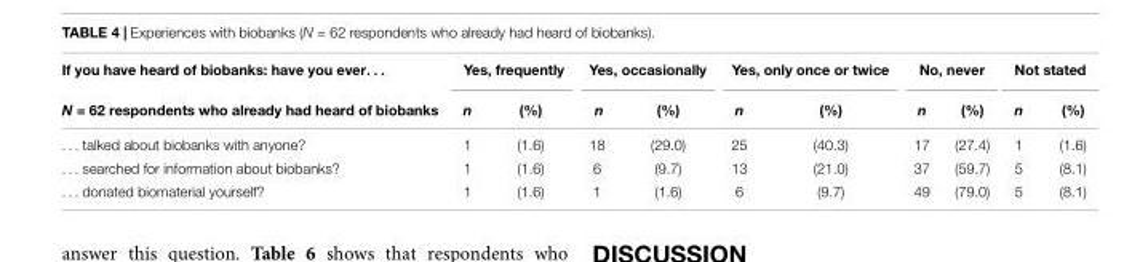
<table><thead><tr><td rowspan="2">If you have heard of biobanks: have you ever. . . N = 62 respondents who already had heard of biobanks</td><td colspan="2">Yes, frequently</td><td colspan="2">Yes, occasionally</td><td colspan="2">Yes, only once or twice</td><td colspan="2">No, never</td><td colspan="2">Not stated</td></tr><tr><td>n</td><td>(%)</td><td>n</td><td>(%)</td><td>n</td><td>(%)</td><td>n</td><td>(%)</td><td>n</td><td>(%)</td></tr></thead><tbody><tr><td>. . . talked about biobanks with anyone?</td><td>1</td><td>(1.6)</td><td>18</td><td>(29.0)</td><td>25</td><td>(40.3)</td><td>17</td><td>(27.4)</td><td>1</td><td>(1.6)</td></tr><tr><td>. . . searched for information about biobanks?</td><td>1</td><td>(1.6)</td><td>6</td><td>(9.7)</td><td>13</td><td>(21.0)</td><td>37</td><td>(59.7)</td><td>5</td><td>(8.1)</td></tr><tr><td>. . . donated biomaterial yourself?</td><td>1</td><td>(1.6)</td><td>1</td><td>(1.6)</td><td>6</td><td>(9.7)</td><td>49</td><td>(79.0)</td><td>5</td><td>(8.1)</td></tr></tbody></table>